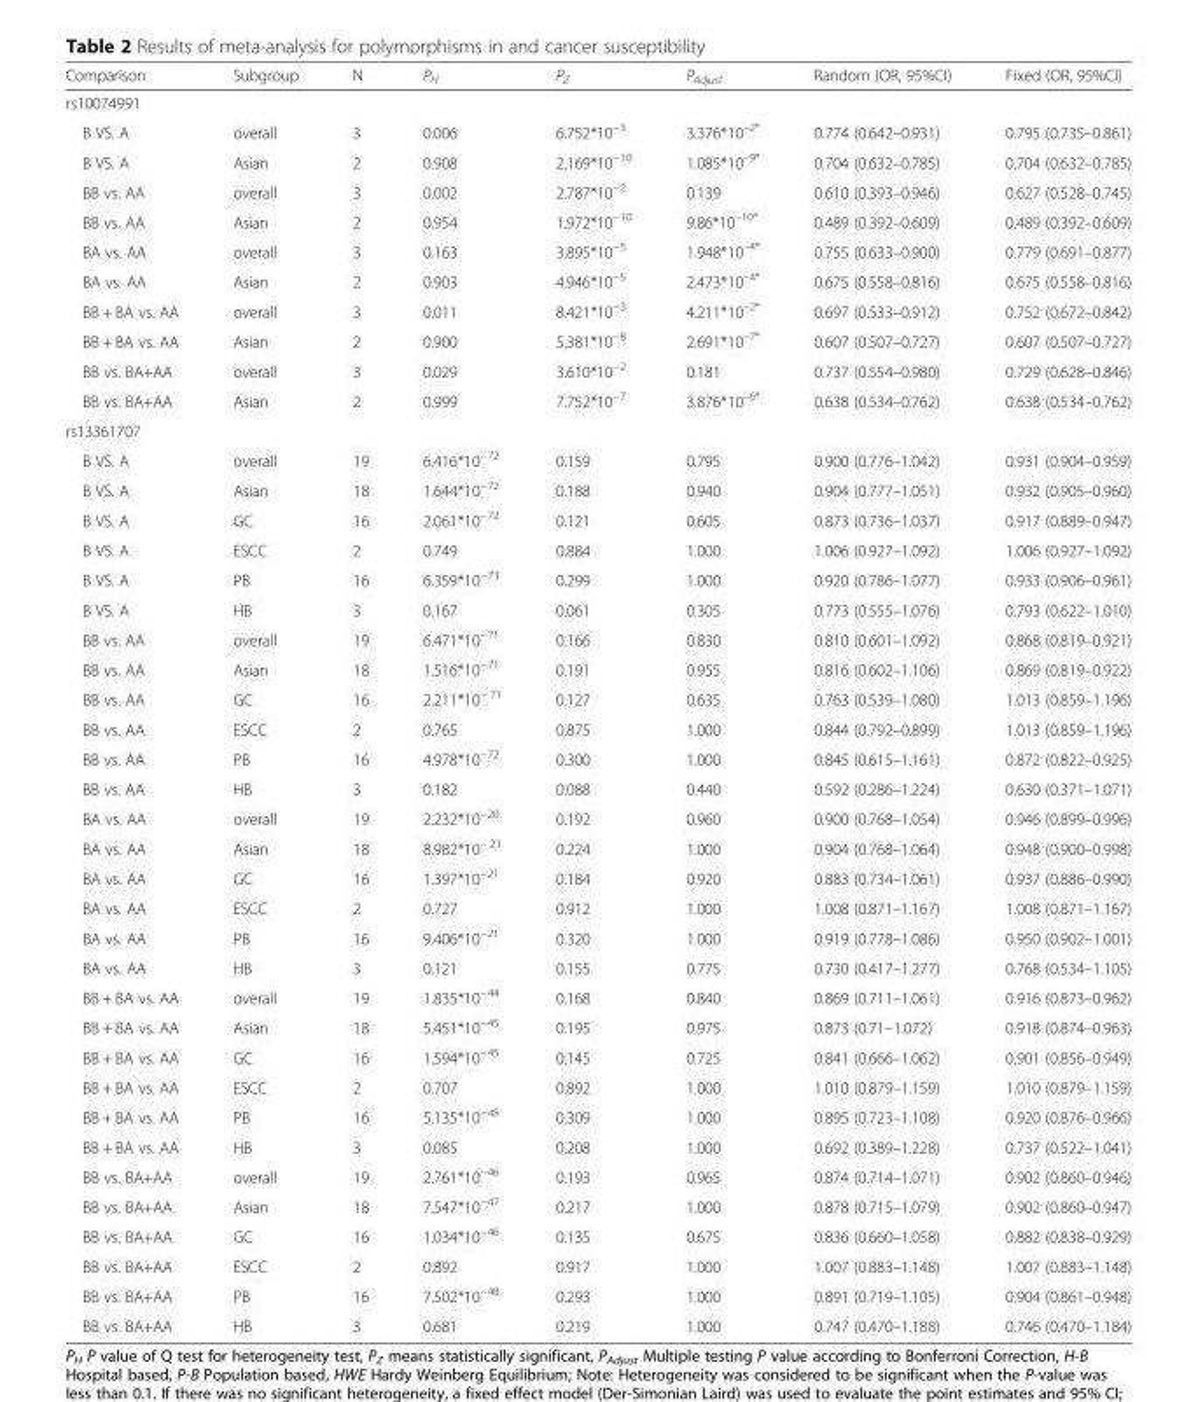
<table><thead><tr><td>Comparison</td><td>Subgroup</td><td>N</td><td>P<sub>H</sub></td><td>P<sub>Z</sub></td><td>P<sub>Adjust</sub></td><td>Random (OR, 95%CI)</td><td>Fixed (OR, 95%CI)</td></tr></thead><tbody><tr><td colspan="8">rs10074991</td></tr><tr><td>B VS. A</td><td>overall</td><td>3</td><td>0.006</td><td>6.752*10<sup>−3</sup></td><td>3.376*10<sup>–2*</sup></td><td>0.774 (0.642–0.931)</td><td>0.795 (0.735–0.861)</td></tr><tr><td>B VS. A</td><td>Asian</td><td>2</td><td>0.908</td><td>2.169*10<sup>−10</sup></td><td>1.085*10<sup>–9*</sup></td><td>0.704 (0.632–0.785)</td><td>0.704 (0.632–0.785)</td></tr><tr><td>BB vs. AA</td><td>overall</td><td>3</td><td>0.002</td><td>2.787*10<sup>−2</sup></td><td>0.139</td><td>0.610 (0.393–0.946)</td><td>0.627 (0.528–0.745)</td></tr><tr><td>BB vs. AA</td><td>Asian</td><td>2</td><td>0.954</td><td>1.972*10<sup>−10</sup></td><td>9.86*10<sup>–10*</sup></td><td>0.489 (0.392–0.609)</td><td>0.489 (0.392–0.609)</td></tr><tr><td>BA vs. AA</td><td>overall</td><td>3</td><td>0.163</td><td>3.895*10<sup>−5</sup></td><td>1.948*10<sup>–4*</sup></td><td>0.755 (0.633–0.900)</td><td>0.779 (0.691–0.877)</td></tr><tr><td>BA vs. AA</td><td>Asian</td><td>2</td><td>0.903</td><td>4.946*10<sup>−5</sup></td><td>2.473*10<sup>–4*</sup></td><td>0.675 (0.558–0.816)</td><td>0.675 (0.558–0.816)</td></tr><tr><td>BB + BA vs. AA</td><td>overall</td><td>3</td><td>0.011</td><td>8.421*10<sup>−3</sup></td><td>4.211*10<sup>–2*</sup></td><td>0.697 (0.533–0.912)</td><td>0.752 (0.672–0.842)</td></tr><tr><td>BB + BA vs. AA</td><td>Asian</td><td>2</td><td>0.900</td><td>5.381*10<sup>−8</sup></td><td>2.691*10<sup>–7*</sup></td><td>0.607 (0.507–0.727)</td><td>0.607 (0.507–0.727)</td></tr><tr><td>BB vs. BA+AA</td><td>overall</td><td>3</td><td>0.029</td><td>3.610*10<sup>−2</sup></td><td>0.181</td><td>0.737 (0.554–0.980)</td><td>0.729 (0.628–0.846)</td></tr><tr><td>BB vs. BA+AA</td><td>Asian</td><td>2</td><td>0.999</td><td>7.752*10<sup>−7</sup></td><td>3.876*10<sup>–6*</sup></td><td>0.638 (0.534–0.762)</td><td>0.638 (0.534–0.762)</td></tr><tr><td colspan="8">rs13361707</td></tr><tr><td>B VS. A</td><td>overall</td><td>19</td><td>6.416*10<sup>−72</sup></td><td>0.159</td><td>0.795</td><td>0.900 (0.776–1.042)</td><td>0.931 (0.904–0.959)</td></tr><tr><td>B VS. A</td><td>Asian</td><td>18</td><td>1.644*10<sup>−72</sup></td><td>0.188</td><td>0.940</td><td>0.904 (0.777–1.051)</td><td>0.932 (0.905–0.960)</td></tr><tr><td>B VS. A</td><td>GC</td><td>16</td><td>2.061*10<sup>−72</sup></td><td>0.121</td><td>0.605</td><td>0.873 (0.736–1.037)</td><td>0.917 (0.889–0.947)</td></tr><tr><td>B VS. A</td><td>ESCC</td><td>2</td><td>0.749</td><td>0.884</td><td>1.000</td><td>1.006 (0.927–1.092)</td><td>1.006 (0.927–1.092)</td></tr><tr><td>B VS. A</td><td>PB</td><td>16</td><td>6.359*10<sup>−73</sup></td><td>0.299</td><td>1.000</td><td>0.920 (0.786–1.077)</td><td>0.933 (0.906–0.961)</td></tr><tr><td>B VS. A</td><td>HB</td><td>3</td><td>0.167</td><td>0.061</td><td>0.305</td><td>0.773 (0.555–1.076)</td><td>0.793 (0.622–1.010)</td></tr><tr><td>BB vs. AA</td><td>overall</td><td>19</td><td>6.471*10<sup>−71</sup></td><td>0.166</td><td>0.830</td><td>0.810 (0.601–1.092)</td><td>0.868 (0.819–0.921)</td></tr><tr><td>BB vs. AA</td><td>Asian</td><td>18</td><td>1.516*10<sup>−71</sup></td><td>0.191</td><td>0.955</td><td>0.816 (0.602–1.106)</td><td>0.869 (0.819–0.922)</td></tr><tr><td>BB vs. AA</td><td>GC</td><td>16</td><td>2.211*10<sup>− 71</sup></td><td>0.127</td><td>0.635</td><td>0.763 (0.539–1.080)</td><td>1.013 (0.859–1.196)</td></tr><tr><td>BB vs. AA</td><td>ESCC</td><td>2</td><td>0.765</td><td>0.875</td><td>1.000</td><td>0.844 (0.792–0.899)</td><td>1.013 (0.859–1.196)</td></tr><tr><td>BB vs. AA</td><td>PB</td><td>16</td><td>4.978*10<sup>−72</sup></td><td>0.300</td><td>1.000</td><td>0.845 (0.615–1.161)</td><td>0.872 (0.822–0.925)</td></tr><tr><td>BB vs. AA</td><td>HB</td><td>3</td><td>0.182</td><td>0.088</td><td>0.440</td><td>0.592 (0.286–1.224)</td><td>0.630 (0.371–1.071)</td></tr><tr><td>BA vs. AA</td><td>overall</td><td>19</td><td>2.232*10<sup>−20</sup></td><td>0.192</td><td>0.960</td><td>0.900 (0.768–1.054)</td><td>0.946 (0.899–0.996)</td></tr><tr><td>BA vs. AA</td><td>Asian</td><td>18</td><td>8.982*10<sup>− 21</sup></td><td>0.224</td><td>1.000</td><td>0.904 (0.768–1.064)</td><td>0.948 (0.900–0.998)</td></tr><tr><td>BA vs. AA</td><td>GC</td><td>16</td><td>1.397*10<sup>−21</sup></td><td>0.184</td><td>0.920</td><td>0.883 (0.734–1.061)</td><td>0.937 (0.886–0.990)</td></tr><tr><td>BA vs. AA</td><td>ESCC</td><td>2</td><td>0.727</td><td>0.912</td><td>1.000</td><td>1.008 (0.871–1.167)</td><td>1.008 (0.871–1.167)</td></tr><tr><td>BA vs. AA</td><td>PB</td><td>16</td><td>9.406*10<sup>−21</sup></td><td>0.320</td><td>1.000</td><td>0.919 (0.778–1.086)</td><td>0.950 (0.902–1.001)</td></tr><tr><td>BA vs. AA</td><td>HB</td><td>3</td><td>0.121</td><td>0.155</td><td>0.775</td><td>0.730 (0.417–1.277)</td><td>0.768 (0.534–1.105)</td></tr><tr><td>BB + BA vs. AA</td><td>overall</td><td>19</td><td>1.835*10<sup>−44</sup></td><td>0.168</td><td>0.840</td><td>0.869 (0.711–1.061)</td><td>0.916 (0.873–0.962)</td></tr><tr><td>BB + BA vs. AA</td><td>Asian</td><td>18</td><td>5.451*10<sup>−45</sup></td><td>0.195</td><td>0.975</td><td>0.873 (0.71–1.072)</td><td>0.918 (0.874–0.963)</td></tr><tr><td>BB + BA vs. AA</td><td>GC</td><td>16</td><td>1.594*10<sup>−45</sup></td><td>0.145</td><td>0.725</td><td>0.841 (0.666–1.062)</td><td>0.901 (0.856–0.949)</td></tr><tr><td>BB + BA vs. AA</td><td>ESCC</td><td>2</td><td>0.707</td><td>0.892</td><td>1.000</td><td>1.010 (0.879–1.159)</td><td>1.010 (0.879–1.159)</td></tr><tr><td>BB + BA vs. AA</td><td>PB</td><td>16</td><td>5.135*10<sup>−45</sup></td><td>0.309</td><td>1.000</td><td>0.895 (0.723–1.108)</td><td>0.920 (0.876–0.966)</td></tr><tr><td>BB + BA vs. AA</td><td>HB</td><td>3</td><td>0.085</td><td>0.208</td><td>1.000</td><td>0.692 (0.389–1.228)</td><td>0.737 (0.522–1.041)</td></tr><tr><td>BB vs. BA+AA</td><td>overall</td><td>19</td><td>2.761*10<sup>−46</sup></td><td>0.193</td><td>0.965</td><td>0.874 (0.714–1.071)</td><td>0.902 (0.860–0.946)</td></tr><tr><td>BB vs. BA+AA</td><td>Asian</td><td>18</td><td>7.547*10<sup>−47</sup></td><td>0.217</td><td>1.000</td><td>0.878 (0.715–1.079)</td><td>0.902 (0.860–0.947)</td></tr><tr><td>BB vs. BA+AA</td><td>GC</td><td>16</td><td>1.034*10<sup>−46</sup></td><td>0.135</td><td>0.675</td><td>0.836 (0.660–1.058)</td><td>0.882 (0.838–0.929)</td></tr><tr><td>BB vs. BA+AA</td><td>ESCC</td><td>2</td><td>0.892</td><td>0.917</td><td>1.000</td><td>1.007 (0.883–1.148)</td><td>1.007 (0.883–1.148)</td></tr><tr><td>BB vs. BA+AA</td><td>PB</td><td>16</td><td>7.502*10<sup>−48</sup></td><td>0.293</td><td>1.000</td><td>0.891 (0.719–1.105)</td><td>0.904 (0.861–0.948)</td></tr><tr><td>BB vs. BA+AA</td><td>HB</td><td>3</td><td>0.681</td><td>0.219</td><td>1.000</td><td>0.747 (0.470–1.188)</td><td>0.746 (0.470–1.184)</td></tr></tbody></table>